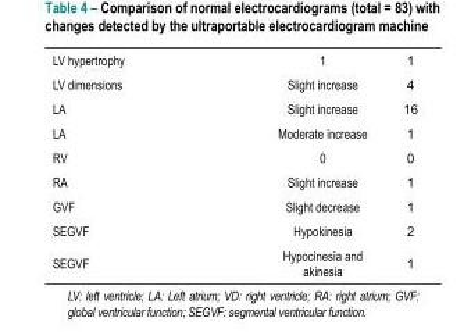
<table><tbody><tr><td>LV hypertrophy</td><td>1</td><td>1</td></tr><tr><td>LV dimensions</td><td>Slight increase</td><td>4</td></tr><tr><td>LA</td><td>Slight increase</td><td>16</td></tr><tr><td>LA</td><td>Moderate increase</td><td>1</td></tr><tr><td>RV</td><td>0</td><td>0</td></tr><tr><td>RA</td><td>Slight increase</td><td>1</td></tr><tr><td>GVF</td><td>Slight decrease</td><td>1</td></tr><tr><td>SEGVF</td><td>Hypokinesia</td><td>2</td></tr><tr><td>SEGVF</td><td>Hypocinesia and akinesia</td><td>1</td></tr></tbody></table>